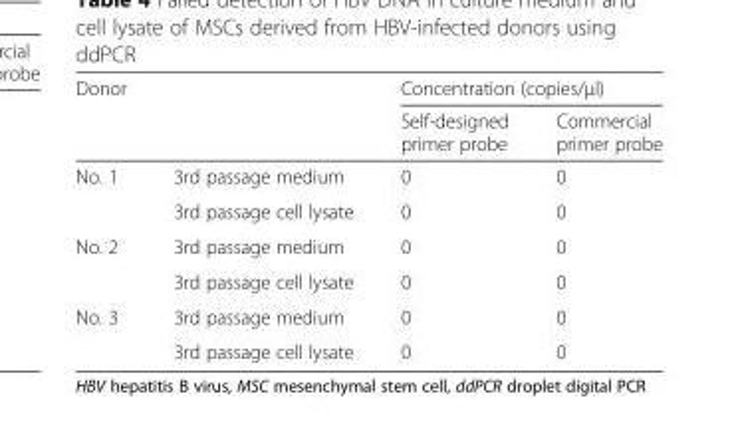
<table><thead><tr><td rowspan="2">Donor</td><td rowspan="2"></td><td colspan="2">Concentration (copies/μl)</td></tr><tr><td>Self-designed primer probe</td><td>Commercial primer probe</td></tr></thead><tbody><tr><td rowspan="2">No. 1</td><td>3rd passage medium</td><td>0</td><td>0</td></tr><tr><td>3rd passage cell lysate</td><td>0</td><td>0</td></tr><tr><td rowspan="2">No. 2</td><td>3rd passage medium</td><td>0</td><td>0</td></tr><tr><td>3rd passage cell lysate</td><td>0</td><td>0</td></tr><tr><td rowspan="2">No. 3</td><td>3rd passage medium</td><td>0</td><td>0</td></tr><tr><td>3rd passage cell lysate</td><td>0</td><td>0</td></tr></tbody></table>